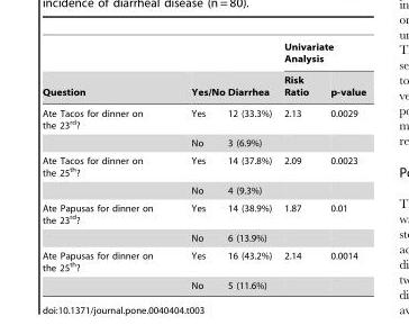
<table><thead><tr><td rowspan="2">Question</td><td rowspan="2">Yes/No</td><td rowspan="2">Diarrhea</td><td colspan="2">Univariate Analysis</td></tr><tr><td>Risk Ratio</td><td>p-value</td></tr></thead><tbody><tr><td rowspan="2">Ate Tacos for dinner on the 23<sup>rd</sup>?</td><td>Yes</td><td>12 (33.3%)</td><td>2.13</td><td>0.0029</td></tr><tr><td>No</td><td>3 (6.9%)</td><td></td><td></td></tr><tr><td rowspan="2">Ate Tacos for dinner on the 25<sup>th</sup>?</td><td>Yes</td><td>14 (37.8%)</td><td>2.09</td><td>0.0023</td></tr><tr><td>No</td><td>4 (9.3%)</td><td></td><td></td></tr><tr><td rowspan="2">Ate Papusas for dinner on the 23<sup>rd</sup>?</td><td>Yes</td><td>14 (38.9%)</td><td>1.87</td><td>0.01</td></tr><tr><td>No</td><td>6 (13.9%)</td><td></td><td></td></tr><tr><td rowspan="2">Ate Papusas for dinner on the 25<sup>th</sup>?</td><td>Yes</td><td>16 (43.2%)</td><td>2.14</td><td>0.0014</td></tr><tr><td>No</td><td>5 (11.6%)</td><td></td><td></td></tr></tbody></table>